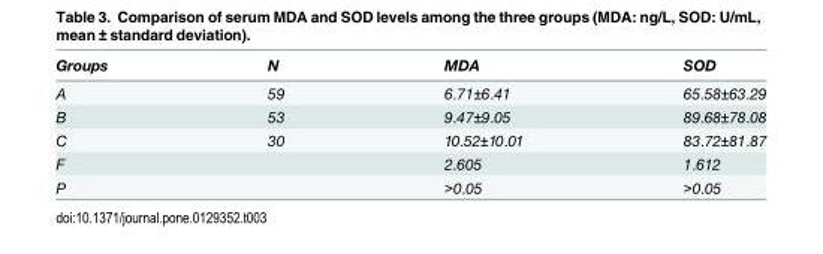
<table><thead><tr><td>Groups</td><td>N</td><td>MDA</td><td>SOD</td></tr></thead><tbody><tr><td>A</td><td>59</td><td>6.71±6.41</td><td>65.58±63.29</td></tr><tr><td>B</td><td>53</td><td>9.47±9.05</td><td>89.68±78.08</td></tr><tr><td>C</td><td>30</td><td>10.52±10.01</td><td>83.72±81.87</td></tr><tr><td>F</td><td></td><td>2.605</td><td>1.612</td></tr><tr><td>P</td><td></td><td>&gt;0.05</td><td>&gt;0.05</td></tr></tbody></table>